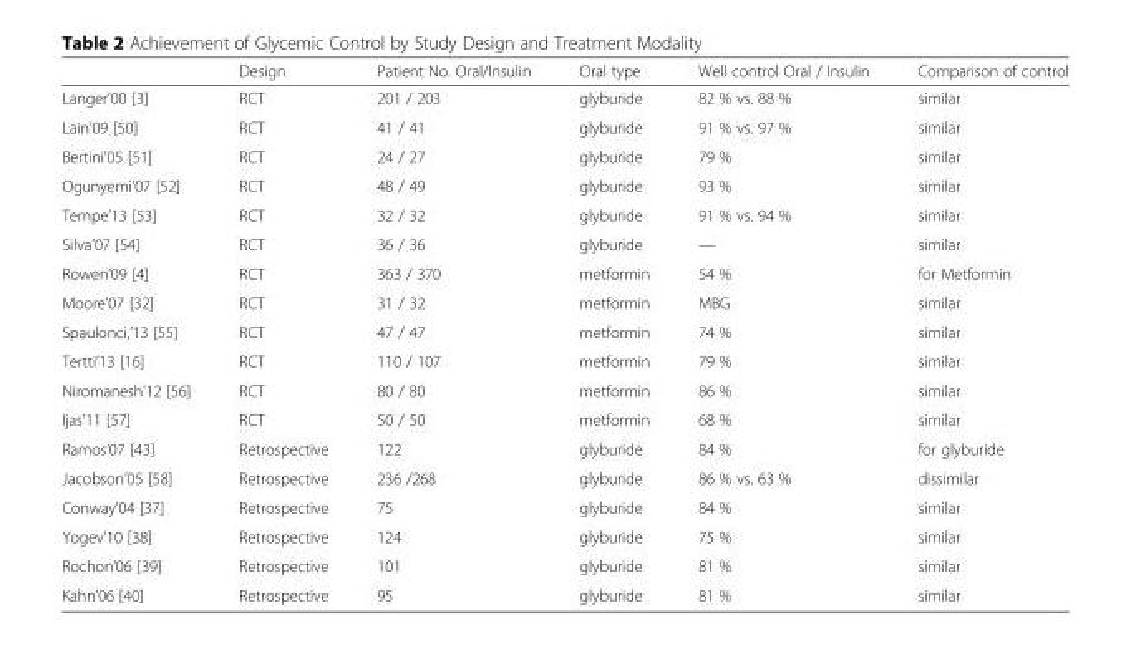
<table><thead><tr><td></td><td>Design</td><td>Patient No. Oral/Insulin</td><td>Oral type</td><td>Well control Oral / Insulin</td><td>Comparison of control</td></tr></thead><tbody><tr><td>Langer’00 [3]</td><td>RCT</td><td>201 / 203</td><td>glyburide</td><td>82 % vs. 88 %</td><td>similar</td></tr><tr><td>Lain’09 [50]</td><td>RCT</td><td>41 / 41</td><td>glyburide</td><td>91 % vs. 97 %</td><td>similar</td></tr><tr><td>Bertini’05 [51]</td><td>RCT</td><td>24 / 27</td><td>glyburide</td><td>79 %</td><td>similar</td></tr><tr><td>Ogunyemi’07 [52]</td><td>RCT</td><td>48 / 49</td><td>glyburide</td><td>93 %</td><td>similar</td></tr><tr><td>Tempe’13 [53]</td><td>RCT</td><td>32 / 32</td><td>glyburide</td><td>91 % vs. 94 %</td><td>similar</td></tr><tr><td>Silva’07 [54]</td><td>RCT</td><td>36 / 36</td><td>glyburide</td><td>—</td><td>similar</td></tr><tr><td>Rowen’09 [4]</td><td>RCT</td><td>363 / 370</td><td>metformin</td><td>54 %</td><td>for Metformin</td></tr><tr><td>Moore’07 [32]</td><td>RCT</td><td>31 / 32</td><td>metformin</td><td>MBG</td><td>similar</td></tr><tr><td>Spaulonci,’13 [55]</td><td>RCT</td><td>47 / 47</td><td>metformin</td><td>74 %</td><td>similar</td></tr><tr><td>Tertti’13 [16]</td><td>RCT</td><td>110 / 107</td><td>metformin</td><td>79 %</td><td>similar</td></tr><tr><td>Niromanesh’12 [56]</td><td>RCT</td><td>80 / 80</td><td>metformin</td><td>86 %</td><td>similar</td></tr><tr><td>Ijas’11 [57]</td><td>RCT</td><td>50 / 50</td><td>metformin</td><td>68 %</td><td>similar</td></tr><tr><td>Ramos’07 [43]</td><td>Retrospective</td><td>122</td><td>glyburide</td><td>84 %</td><td>for glyburide</td></tr><tr><td>Jacobson’05 [58]</td><td>Retrospective</td><td>236 /268</td><td>glyburide</td><td>86 % vs. 63 %</td><td>dissimilar</td></tr><tr><td>Conway’04 [37]</td><td>Retrospective</td><td>75</td><td>glyburide</td><td>84 %</td><td>similar</td></tr><tr><td>Yogev’10 [38]</td><td>Retrospective</td><td>124</td><td>glyburide</td><td>75 %</td><td>similar</td></tr><tr><td>Rochon’06 [39]</td><td>Retrospective</td><td>101</td><td>glyburide</td><td>81 %</td><td>similar</td></tr><tr><td>Kahn’06 [40]</td><td>Retrospective</td><td>95</td><td>glyburide</td><td>81 %</td><td>similar</td></tr></tbody></table>